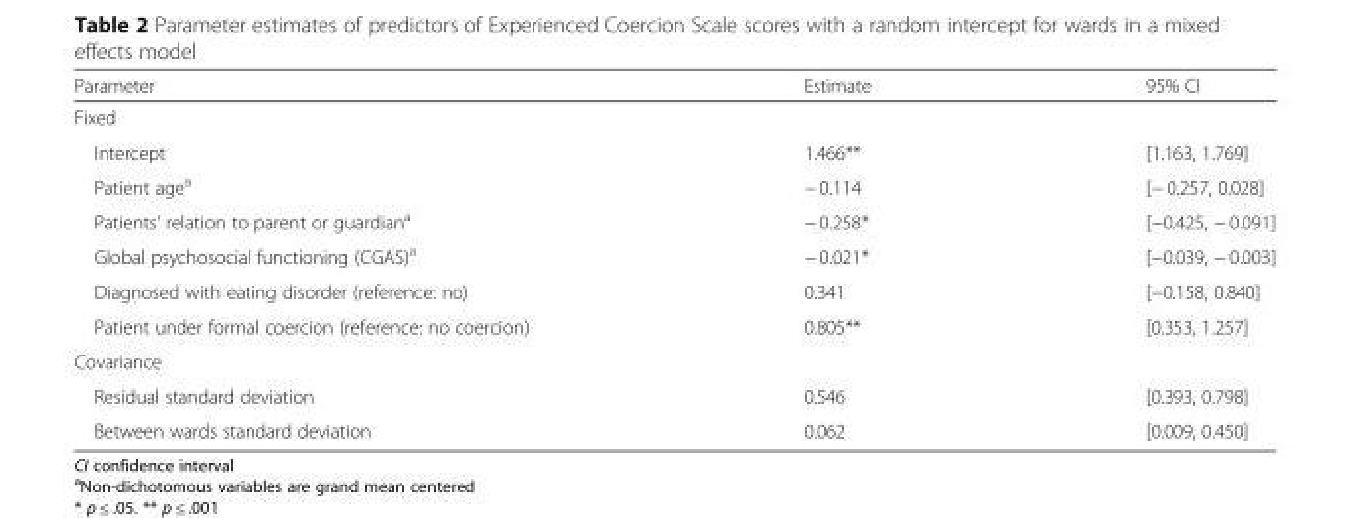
<table><thead><tr><td>Parameter</td><td>Estimate</td><td>95% CI</td></tr></thead><tbody><tr><td colspan="3">Fixed</td></tr><tr><td>Intercept</td><td>1.466**</td><td>[1.163, 1.769]</td></tr><tr><td>Patient age<sup>a</sup></td><td>− 0.114</td><td>[− 0.257, 0.028]</td></tr><tr><td>Patients’ relation to parent or guardian<sup>a</sup></td><td>− 0.258*</td><td>[−0.425, − 0.091]</td></tr><tr><td>Global psychosocial functioning (CGAS)<sup>a</sup></td><td>− 0.021*</td><td>[−0.039, − 0.003]</td></tr><tr><td>Diagnosed with eating disorder (reference: no)</td><td>0.341</td><td>[−0.158, 0.840]</td></tr><tr><td>Patient under formal coercion (reference: no coercion)</td><td>0.805**</td><td>[0.353, 1.257]</td></tr><tr><td colspan="3">Covariance</td></tr><tr><td>Residual standard deviation</td><td>0.546</td><td>[0.393, 0.798]</td></tr><tr><td>Between wards standard deviation</td><td>0.062</td><td>[0.009, 0.450]</td></tr></tbody></table>